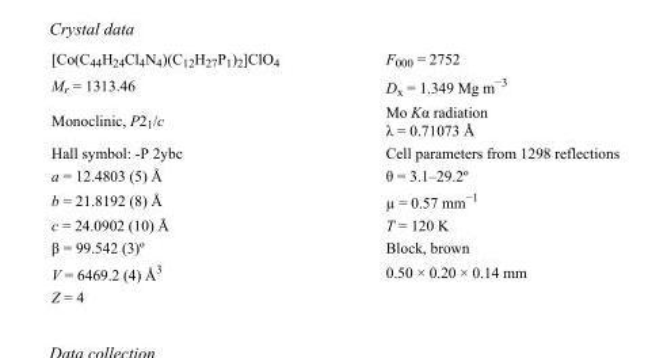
<table><tbody><tr><td>[Co(C44H24Cl4N4)(C12H27P1)2]ClO4</td><td>F000 = 2752</td></tr><tr><td>M<sub>r</sub> = 1313.46</td><td>D<sub>x</sub> = 1.349 Mg m<sup>−3</sup></td></tr><tr><td>Monoclinic, P2<sub>1</sub>/c</td><td>Mo Kα radiation λ = 0.71073 Å</td></tr><tr><td>Hall symbol: -P 2ybc</td><td>Cell parameters from 1298 reflections</td></tr><tr><td>a = 12.4803 (5) Å</td><td>θ = 3.1–29.2º</td></tr><tr><td>b = 21.8192 (8) Å</td><td>µ = 0.57 mm<sup>−1</sup></td></tr><tr><td>c = 24.0902 (10) Å</td><td>T = 120 K</td></tr><tr><td>β = 99.542 (3)º</td><td>Block, brown</td></tr><tr><td>V = 6469.2 (4) Å<sup>3</sup></td><td>0.50 × 0.20 × 0.14 mm</td></tr><tr><td>Z = 4</td><td></td></tr></tbody></table>